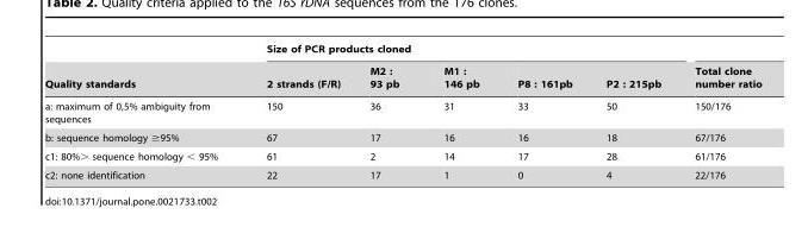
<table><thead><tr><td rowspan="2">Quality standards</td><td colspan="5">Size of PCR products cloned</td><td rowspan="2">Total clone number ratio</td></tr><tr><td>2 strands (F/R)</td><td>M2 : 93 pb</td><td>M1 : 146 pb</td><td>P8 : 161pb</td><td>P2 : 215pb</td></tr></thead><tbody><tr><td>a: maximum of 0,5% ambiguity from sequences</td><td>150</td><td>36</td><td>31</td><td>33</td><td>50</td><td>150/176</td></tr><tr><td>b: sequence homology ≥95%</td><td>67</td><td>17</td><td>16</td><td>16</td><td>18</td><td>67/176</td></tr><tr><td>c1: 80%&gt; sequence homology &lt; 95%</td><td>61</td><td>2</td><td>14</td><td>17</td><td>28</td><td>61/176</td></tr><tr><td>c2: none identification</td><td>22</td><td>17</td><td>1</td><td>0</td><td>4</td><td>22/176</td></tr></tbody></table>